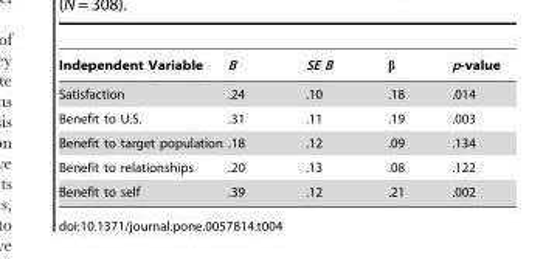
<table><thead><tr><td>Independent Variable</td><td>B</td><td>SE B</td><td>β</td><td>p-value</td></tr></thead><tbody><tr><td>Satisfaction</td><td>.24</td><td>.10</td><td>.18</td><td>.014</td></tr><tr><td>Benefit to U.S.</td><td>.31</td><td>.11</td><td>.19</td><td>.003</td></tr><tr><td>Benefit to target population</td><td>.18</td><td>.12</td><td>.09</td><td>.134</td></tr><tr><td>Benefit to relationships</td><td>.20</td><td>.13</td><td>.08</td><td>.122</td></tr><tr><td>Benefit to self</td><td>.39</td><td>.12</td><td>.21</td><td>.002</td></tr></tbody></table>